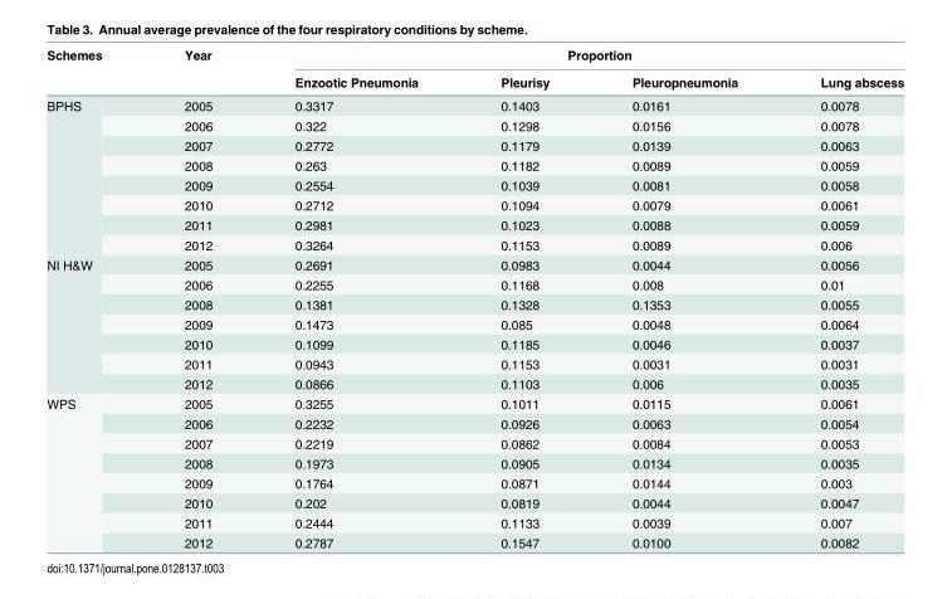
<table><thead><tr><td rowspan="2">Schemes</td><td rowspan="2">Year</td><td colspan="4">Proportion</td></tr><tr><td>Enzootic Pneumonia</td><td>Pleurisy</td><td>Pleuropneumonia</td><td>Lung abscess</td></tr></thead><tbody><tr><td rowspan="8">BPHS</td><td>2005</td><td>0.3317</td><td>0.1403</td><td>0.0161</td><td>0.0078</td></tr><tr><td>2006</td><td>0.322</td><td>0.1298</td><td>0.0156</td><td>0.0078</td></tr><tr><td>2007</td><td>0.2772</td><td>0.1179</td><td>0.0139</td><td>0.0063</td></tr><tr><td>2008</td><td>0.263</td><td>0.1182</td><td>0.0089</td><td>0.0059</td></tr><tr><td>2009</td><td>0.2554</td><td>0.1039</td><td>0.0081</td><td>0.0058</td></tr><tr><td>2010</td><td>0.2712</td><td>0.1094</td><td>0.0079</td><td>0.0061</td></tr><tr><td>2011</td><td>0.2981</td><td>0.1023</td><td>0.0088</td><td>0.0059</td></tr><tr><td>2012</td><td>0.3264</td><td>0.1153</td><td>0.0089</td><td>0.006</td></tr><tr><td rowspan="7">NI H&amp;W</td><td>2005</td><td>0.2691</td><td>0.0983</td><td>0.0044</td><td>0.0056</td></tr><tr><td>2006</td><td>0.2255</td><td>0.1168</td><td>0.008</td><td>0.01</td></tr><tr><td>2008</td><td>0.1381</td><td>0.1328</td><td>0.1353</td><td>0.0055</td></tr><tr><td>2009</td><td>0.1473</td><td>0.085</td><td>0.0048</td><td>0.0064</td></tr><tr><td>2010</td><td>0.1099</td><td>0.1185</td><td>0.0046</td><td>0.0037</td></tr><tr><td>2011</td><td>0.0943</td><td>0.1153</td><td>0.0031</td><td>0.0031</td></tr><tr><td>2012</td><td>0.0866</td><td>0.1103</td><td>0.006</td><td>0.0035</td></tr><tr><td rowspan="8">WPS</td><td>2005</td><td>0.3255</td><td>0.1011</td><td>0.0115</td><td>0.0061</td></tr><tr><td>2006</td><td>0.2232</td><td>0.0926</td><td>0.0063</td><td>0.0054</td></tr><tr><td>2007</td><td>0.2219</td><td>0.0862</td><td>0.0084</td><td>0.0053</td></tr><tr><td>2008</td><td>0.1973</td><td>0.0905</td><td>0.0134</td><td>0.0035</td></tr><tr><td>2009</td><td>0.1764</td><td>0.0871</td><td>0.0144</td><td>0.003</td></tr><tr><td>2010</td><td>0.202</td><td>0.0819</td><td>0.0044</td><td>0.0047</td></tr><tr><td>2011</td><td>0.2444</td><td>0.1133</td><td>0.0039</td><td>0.007</td></tr><tr><td>2012</td><td>0.2787</td><td>0.1547</td><td>0.0100</td><td>0.0082</td></tr></tbody></table>